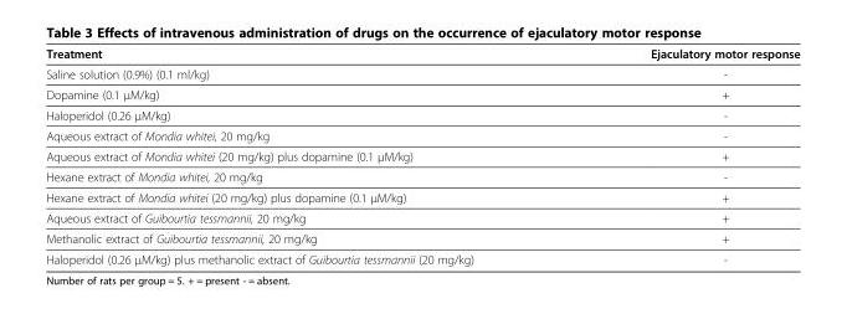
<table><thead><tr><td>Treatment</td><td>Ejaculatory motor response</td></tr></thead><tbody><tr><td>Saline solution (0.9%) (0.1 ml/kg)</td><td>-</td></tr><tr><td>Dopamine (0.1 μM/kg)</td><td>+</td></tr><tr><td>Haloperidol (0.26 μM/kg)</td><td>-</td></tr><tr><td>Aqueous extract of Mondia whitei, 20 mg/kg</td><td>-</td></tr><tr><td>Aqueous extract of Mondia whitei (20 mg/kg) plus dopamine (0.1 μM/kg)</td><td>+</td></tr><tr><td>Hexane extract of Mondia whitei, 20 mg/kg</td><td>-</td></tr><tr><td>Hexane extract of Mondia whitei (20 mg/kg) plus dopamine (0.1 μM/kg)</td><td>+</td></tr><tr><td>Aqueous extract of Guibourtia tessmannii, 20 mg/kg</td><td>+</td></tr><tr><td>Methanolic extract of Guibourtia tessmannii, 20 mg/kg</td><td>+</td></tr><tr><td>Haloperidol (0.26 μM/kg) plus methanolic extract of Guibourtia tessmannii (20 mg/kg)</td><td>-</td></tr></tbody></table>